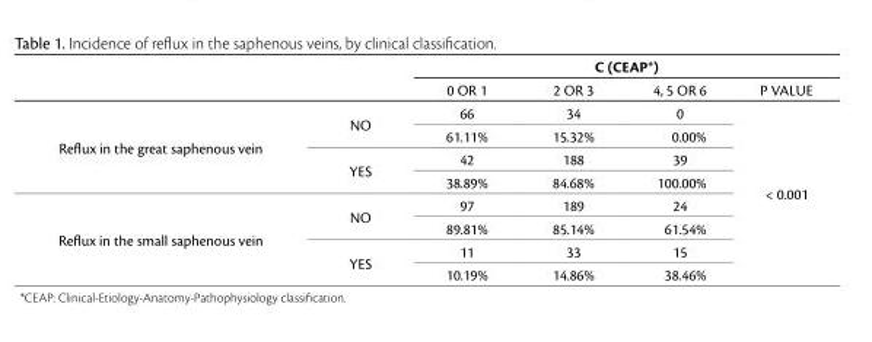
<table><thead><tr><td rowspan="2"></td><td colspan="5">C (CEAP*)</td></tr><tr><td></td><td>0 OR 1</td><td>2 OR 3</td><td>4, 5 OR 6</td><td>P VALUE</td></tr></thead><tbody><tr><td rowspan="4">Reflux in the great saphenous vein</td><td rowspan="2">NO</td><td>66</td><td>34</td><td>0</td><td rowspan="8">&lt; 0.001</td></tr><tr><td>61.11%</td><td>15.32%</td><td>0.00%</td></tr><tr><td rowspan="2">YES</td><td>42</td><td>188</td><td>39</td></tr><tr><td>38.89%</td><td>84.68%</td><td>100.00%</td></tr><tr><td rowspan="4">Reflux in the small saphenous vein</td><td rowspan="2">NO</td><td>97</td><td>189</td><td>24</td></tr><tr><td>89.81%</td><td>85.14%</td><td>61.54%</td></tr><tr><td rowspan="2">YES</td><td>11</td><td>33</td><td>15</td></tr><tr><td>10.19%</td><td>14.86%</td><td>38.46%</td></tr></tbody></table>